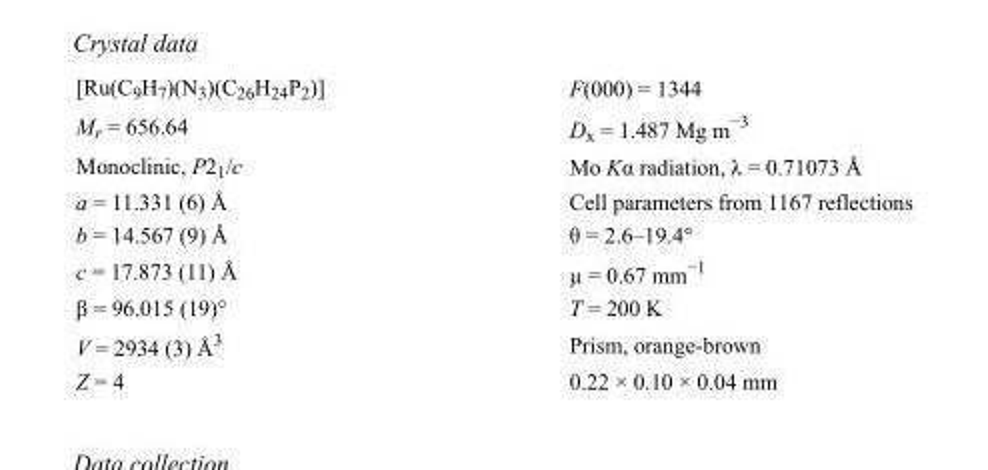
<table><tbody><tr><td>[Ru(C<sub>9</sub>H<sub>7</sub>)(N<sub>3</sub>)(C<sub>26</sub>H<sub>24</sub>P<sub>2</sub>)]</td><td>F(000) = 1344</td></tr><tr><td>M<sub>r</sub> = 656.64</td><td>D<sub>x</sub> = 1.487 Mg m<sup>−3</sup></td></tr><tr><td>Monoclinic, P2<sub>1</sub>/c</td><td>Mo Kα radiation, λ = 0.71073 Å</td></tr><tr><td>a = 11.331 (6) Å</td><td>Cell parameters from 1167 reflections</td></tr><tr><td>b = 14.567 (9) Å</td><td>θ = 2.6–19.4°</td></tr><tr><td>c = 17.873 (11) Å</td><td>µ = 0.67 mm<sup>−1</sup></td></tr><tr><td>β = 96.015 (19)°</td><td>T = 200 K</td></tr><tr><td>V = 2934 (3) Å<sup>3</sup></td><td>Prism, orange-brown</td></tr><tr><td>Z = 4</td><td>0.22 × 0.10 × 0.04 mm</td></tr></tbody></table>